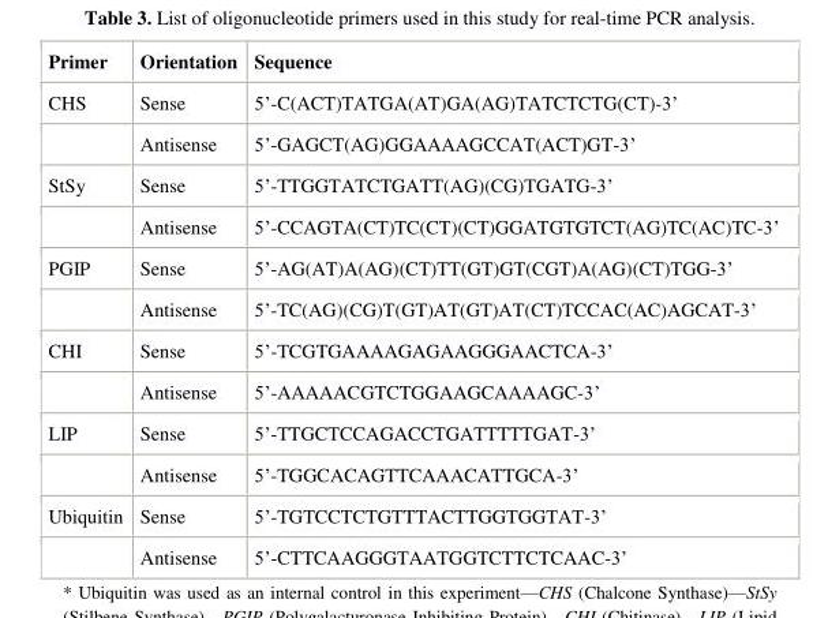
<table><thead><tr><td>Primer</td><td>Orientation</td><td>Sequence</td></tr></thead><tbody><tr><td rowspan="2">CHS</td><td>Sense</td><td>5’-C(ACT)TATGA(AT)GA(AG)TATCTCTG(CT)-3’</td></tr><tr><td>Antisense</td><td>5’-GAGCT(AG)GGAAAAGCCAT(ACT)GT-3’</td></tr><tr><td rowspan="2">StSy</td><td>Sense</td><td>5’-TTGGTATCTGATT(AG)(CG)TGATG-3’</td></tr><tr><td>Antisense</td><td>5’-CCAGTA(CT)TC(CT)(CT)GGATGTGTCT(AG)TC(AC)TC-3’</td></tr><tr><td rowspan="2">PGIP</td><td>Sense</td><td>5’-AG(AT)A(AG)(CT)TT(GT)GT(CGT)A(AG)(CT)TGG-3’</td></tr><tr><td>Antisense</td><td>5’-TC(AG)(CG)T(GT)AT(GT)AT(CT)TCCAC(AC)AGCAT-3’</td></tr><tr><td rowspan="2">CHI</td><td>Sense</td><td>5’-TCGTGAAAAGAGAAGGGAACTCA-3’</td></tr><tr><td>Antisense</td><td>5’-AAAAACGTCTGGAAGCAAAAGC-3’</td></tr><tr><td rowspan="2">LIP</td><td>Sense</td><td>5’-TTGCTCCAGACCTGATTTTTGAT-3’</td></tr><tr><td>Antisense</td><td>5’-TGGCACAGTTCAAACATTGCA-3’</td></tr><tr><td rowspan="2">Ubiquitin</td><td>Sense</td><td>5’-TGTCCTCTGTTTACTTGGTGGTAT-3’</td></tr><tr><td>Antisense</td><td>5’-CTTCAAGGGTAATGGTCTTCTCAAC-3’</td></tr></tbody></table>